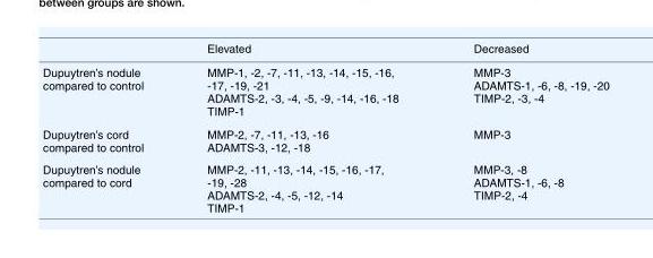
<table><thead><tr><td></td><td>Elevated</td><td>Decreased</td></tr></thead><tbody><tr><td>Dupuytren’s nodule compared to control</td><td>MMP-1, -2, -7, -11, -13, -14, -15, -16, -17, -19, -21 ADAMTS-2, -3, -4, -5, -9, -14, -16, -18 TIMP-1</td><td>MMP-3 ADAMTS-1, -6, -8, -19, -20 TIMP-2, -3, -4</td></tr><tr><td>Dupuytren’s cord compared to control</td><td>MMP-2, -7, -11, -13, -16 ADAMTS-3, -12, -18</td><td>MMP-3</td></tr><tr><td>Dupuytren’s nodule compared to cord</td><td>MMP-2, -11, -13, -14, -15, -16, -17, -19, -28 ADAMTS-2, -4, -5, -12, -14 TIMP-1</td><td>MMP-3, -8 ADAMTS-1, -6, -8 TIMP-2, -4</td></tr></tbody></table>